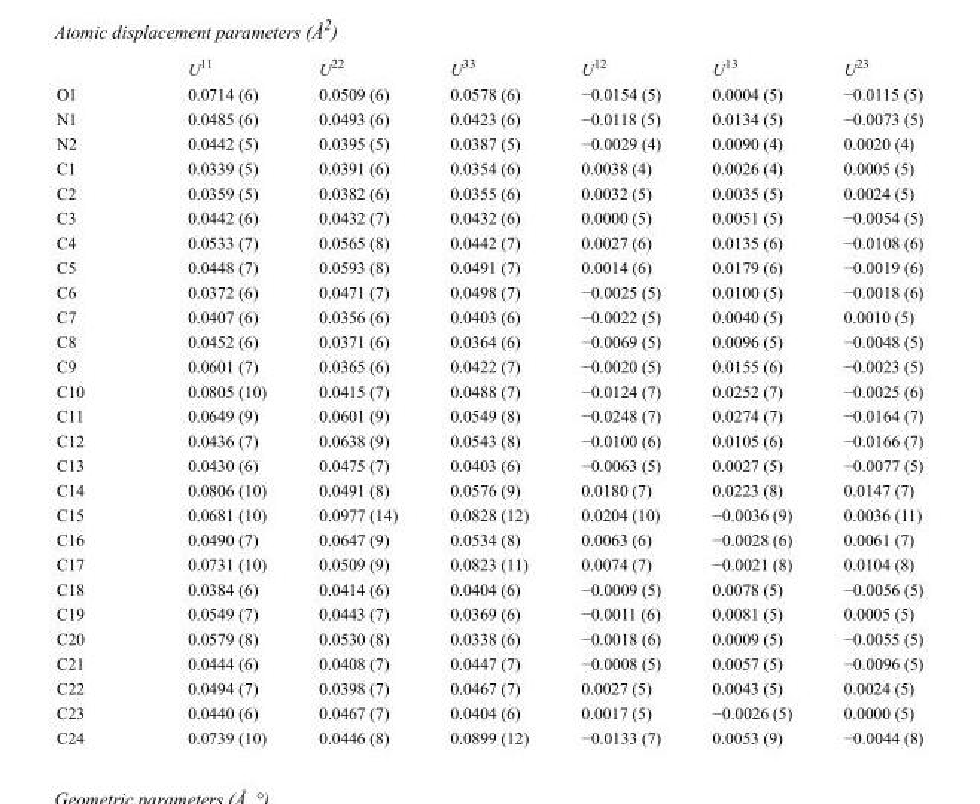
<table><thead><tr><td></td><td>U<sup>11</sup></td><td>U<sup>22</sup></td><td>U<sup>33</sup></td><td>U<sup>12</sup></td><td>U<sup>13</sup></td><td>U<sup>23</sup></td></tr></thead><tbody><tr><td>O1</td><td>0.0714 (6)</td><td>0.0509 (6)</td><td>0.0578 (6)</td><td>−0.0154 (5)</td><td>0.0004 (5)</td><td>−0.0115 (5)</td></tr><tr><td>N1</td><td>0.0485 (6)</td><td>0.0493 (6)</td><td>0.0423 (6)</td><td>−0.0118 (5)</td><td>0.0134 (5)</td><td>−0.0073 (5)</td></tr><tr><td>N2</td><td>0.0442 (5)</td><td>0.0395 (5)</td><td>0.0387 (5)</td><td>−0.0029 (4)</td><td>0.0090 (4)</td><td>0.0020 (4)</td></tr><tr><td>C1</td><td>0.0339 (5)</td><td>0.0391 (6)</td><td>0.0354 (6)</td><td>0.0038 (4)</td><td>0.0026 (4)</td><td>0.0005 (5)</td></tr><tr><td>C2</td><td>0.0359 (5)</td><td>0.0382 (6)</td><td>0.0355 (6)</td><td>0.0032 (5)</td><td>0.0035 (5)</td><td>0.0024 (5)</td></tr><tr><td>C3</td><td>0.0442 (6)</td><td>0.0432 (7)</td><td>0.0432 (6)</td><td>0.0000 (5)</td><td>0.0051 (5)</td><td>−0.0054 (5)</td></tr><tr><td>C4</td><td>0.0533 (7)</td><td>0.0565 (8)</td><td>0.0442 (7)</td><td>0.0027 (6)</td><td>0.0135 (6)</td><td>−0.0108 (6)</td></tr><tr><td>C5</td><td>0.0448 (7)</td><td>0.0593 (8)</td><td>0.0491 (7)</td><td>0.0014 (6)</td><td>0.0179 (6)</td><td>−0.0019 (6)</td></tr><tr><td>C6</td><td>0.0372 (6)</td><td>0.0471 (7)</td><td>0.0498 (7)</td><td>−0.0025 (5)</td><td>0.0100 (5)</td><td>−0.0018 (6)</td></tr><tr><td>C7</td><td>0.0407 (6)</td><td>0.0356 (6)</td><td>0.0403 (6)</td><td>−0.0022 (5)</td><td>0.0040 (5)</td><td>0.0010 (5)</td></tr><tr><td>C8</td><td>0.0452 (6)</td><td>0.0371 (6)</td><td>0.0364 (6)</td><td>−0.0069 (5)</td><td>0.0096 (5)</td><td>−0.0048 (5)</td></tr><tr><td>C9</td><td>0.0601 (7)</td><td>0.0365 (6)</td><td>0.0422 (7)</td><td>−0.0020 (5)</td><td>0.0155 (6)</td><td>−0.0023 (5)</td></tr><tr><td>C10</td><td>0.0805 (10)</td><td>0.0415 (7)</td><td>0.0488 (7)</td><td>−0.0124 (7)</td><td>0.0252 (7)</td><td>−0.0025 (6)</td></tr><tr><td>C11</td><td>0.0649 (9)</td><td>0.0601 (9)</td><td>0.0549 (8)</td><td>−0.0248 (7)</td><td>0.0274 (7)</td><td>−0.0164 (7)</td></tr><tr><td>C12</td><td>0.0436 (7)</td><td>0.0638 (9)</td><td>0.0543 (8)</td><td>−0.0100 (6)</td><td>0.0105 (6)</td><td>−0.0166 (7)</td></tr><tr><td>C13</td><td>0.0430 (6)</td><td>0.0475 (7)</td><td>0.0403 (6)</td><td>−0.0063 (5)</td><td>0.0027 (5)</td><td>−0.0077 (5)</td></tr><tr><td>C14</td><td>0.0806 (10)</td><td>0.0491 (8)</td><td>0.0576 (9)</td><td>0.0180 (7)</td><td>0.0223 (8)</td><td>0.0147 (7)</td></tr><tr><td>C15</td><td>0.0681 (10)</td><td>0.0977 (14)</td><td>0.0828 (12)</td><td>0.0204 (10)</td><td>−0.0036 (9)</td><td>0.0036 (11)</td></tr><tr><td>C16</td><td>0.0490 (7)</td><td>0.0647 (9)</td><td>0.0534 (8)</td><td>0.0063 (6)</td><td>−0.0028 (6)</td><td>0.0061 (7)</td></tr><tr><td>C17</td><td>0.0731 (10)</td><td>0.0509 (9)</td><td>0.0823 (11)</td><td>0.0074 (7)</td><td>−0.0021 (8)</td><td>0.0104 (8)</td></tr><tr><td>C18</td><td>0.0384 (6)</td><td>0.0414 (6)</td><td>0.0404 (6)</td><td>−0.0009 (5)</td><td>0.0078 (5)</td><td>−0.0056 (5)</td></tr><tr><td>C19</td><td>0.0549 (7)</td><td>0.0443 (7)</td><td>0.0369 (6)</td><td>−0.0011 (6)</td><td>0.0081 (5)</td><td>0.0005 (5)</td></tr><tr><td>C20</td><td>0.0579 (8)</td><td>0.0530 (8)</td><td>0.0338 (6)</td><td>−0.0018 (6)</td><td>0.0009 (5)</td><td>−0.0055 (5)</td></tr><tr><td>C21</td><td>0.0444 (6)</td><td>0.0408 (7)</td><td>0.0447 (7)</td><td>−0.0008 (5)</td><td>0.0057 (5)</td><td>−0.0096 (5)</td></tr><tr><td>C22</td><td>0.0494 (7)</td><td>0.0398 (7)</td><td>0.0467 (7)</td><td>0.0027 (5)</td><td>0.0043 (5)</td><td>0.0024 (5)</td></tr><tr><td>C23</td><td>0.0440 (6)</td><td>0.0467 (7)</td><td>0.0404 (6)</td><td>0.0017 (5)</td><td>−0.0026 (5)</td><td>0.0000 (5)</td></tr><tr><td>C24</td><td>0.0739 (10)</td><td>0.0446 (8)</td><td>0.0899 (12)</td><td>−0.0133 (7)</td><td>0.0053 (9)</td><td>−0.0044 (8)</td></tr></tbody></table>